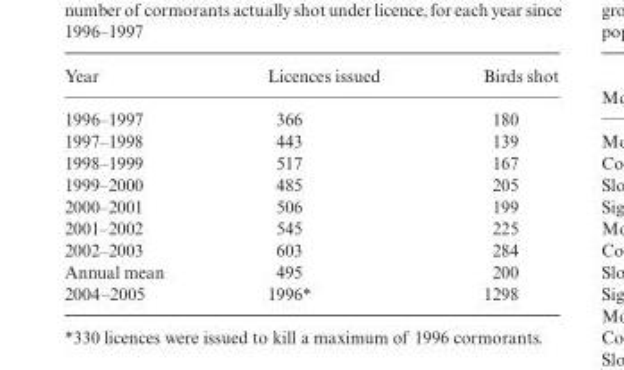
<table><thead><tr><td>Year</td><td>Licences issued</td><td>Birds shot</td></tr></thead><tbody><tr><td>1996–1997</td><td>366</td><td>180</td></tr><tr><td>1997–1998</td><td>443</td><td>139</td></tr><tr><td>1998–1999</td><td>517</td><td>167</td></tr><tr><td>1999–2000</td><td>485</td><td>205</td></tr><tr><td>2000–2001</td><td>506</td><td>199</td></tr><tr><td>2001–2002</td><td>545</td><td>225</td></tr><tr><td>2002–2003</td><td>603</td><td>284</td></tr><tr><td>Annual mean</td><td>495</td><td>200</td></tr><tr><td>2004–2005</td><td>1996*</td><td>1298</td></tr></tbody></table>